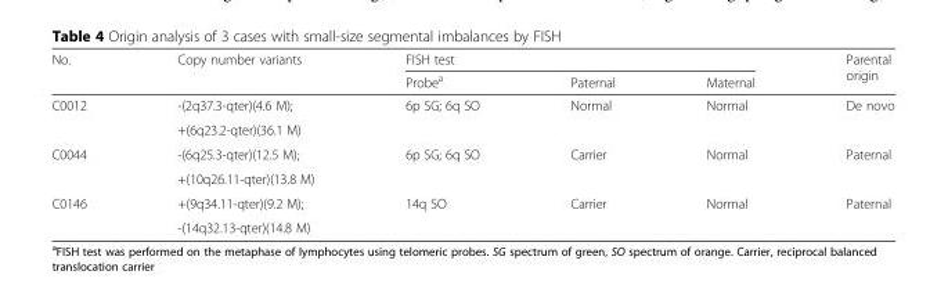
<table><thead><tr><td rowspan="2">No.</td><td rowspan="2">Copy number variants</td><td colspan="3">FISH test</td><td rowspan="2">Parental origin</td></tr><tr><td>Probe<sup>a</sup></td><td>Paternal</td><td>Maternal</td></tr></thead><tbody><tr><td rowspan="2">C0012</td><td>-(2q37.3-qter)(4.6 M);</td><td rowspan="2">6p SG; 6q SO</td><td rowspan="2">Normal</td><td rowspan="2">Normal</td><td rowspan="2">De novo</td></tr><tr><td>+(6q23.2-qter)(36.1 M)</td></tr><tr><td rowspan="2">C0044</td><td>-(6q25.3-qter)(12.5 M);</td><td rowspan="2">6p SG; 6q SO</td><td rowspan="2">Carrier</td><td rowspan="2">Normal</td><td rowspan="2">Paternal</td></tr><tr><td>+(10q26.11-qter)(13.8 M)</td></tr><tr><td rowspan="2">C0146</td><td>+(9q34.11-qter)(9.2 M);</td><td rowspan="2">14q SO</td><td rowspan="2">Carrier</td><td rowspan="2">Normal</td><td rowspan="2">Paternal</td></tr><tr><td>-(14q32.13-qter)(14.8 M)</td></tr></tbody></table>